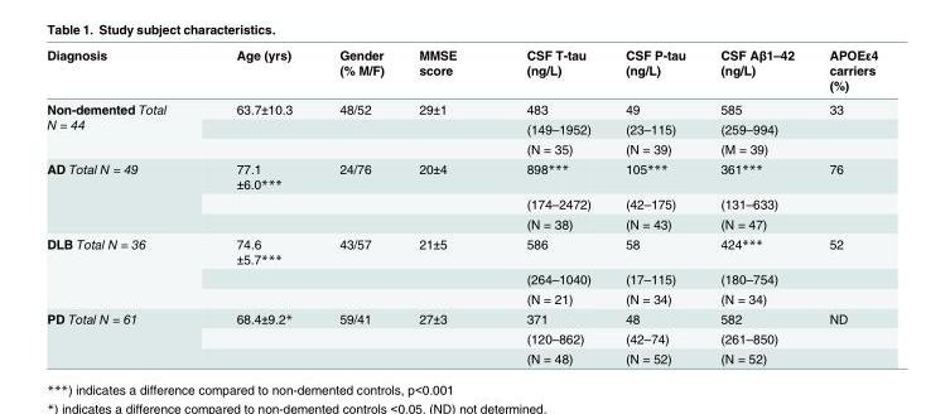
<table><thead><tr><td>Diagnosis</td><td>Age (yrs)</td><td>Gender (% M/F)</td><td>MMSE score</td><td>CSF T-tau (ng/L)</td><td>CSF P-tau (ng/L)</td><td>CSF Aβ1–42 (ng/L)</td><td>APOEε4 carriers (%)</td></tr></thead><tbody><tr><td rowspan="3">Non-demented Total N = 44</td><td>63.7±10.3</td><td>48/52</td><td>29±1</td><td>483</td><td>49</td><td>585</td><td>33</td></tr><tr><td></td><td></td><td></td><td>(149–1952)</td><td>(23–115)</td><td>(259–994)</td><td></td></tr><tr><td></td><td></td><td></td><td>(N = 35)</td><td>(N = 39)</td><td>(M = 39)</td><td></td></tr><tr><td rowspan="3">AD Total N = 49</td><td>77.1 ±6.0***</td><td>24/76</td><td>20±4</td><td>898***</td><td>105***</td><td>361***</td><td>76</td></tr><tr><td></td><td></td><td></td><td>(174–2472)</td><td>(42–175)</td><td>(131–633)</td><td></td></tr><tr><td></td><td></td><td></td><td>(N = 38)</td><td>(N = 43)</td><td>(N = 47)</td><td></td></tr><tr><td rowspan="3">DLB Total N = 36</td><td>74.6 ±5.7***</td><td>43/57</td><td>21±5</td><td>586</td><td>58</td><td>424***</td><td>52</td></tr><tr><td></td><td></td><td></td><td>(264–1040)</td><td>(17–115)</td><td>(180–754)</td><td></td></tr><tr><td></td><td></td><td></td><td>(N = 21)</td><td>(N = 34)</td><td>(N = 34)</td><td></td></tr><tr><td rowspan="3">PD Total N = 61</td><td>68.4±9.2*</td><td>59/41</td><td>27±3</td><td>371</td><td>48</td><td>582</td><td>ND</td></tr><tr><td></td><td></td><td></td><td>(120–862)</td><td>(42–74)</td><td>(261–850)</td><td></td></tr><tr><td></td><td></td><td></td><td>(N = 48)</td><td>(N = 52)</td><td>(N = 52)</td><td></td></tr></tbody></table>